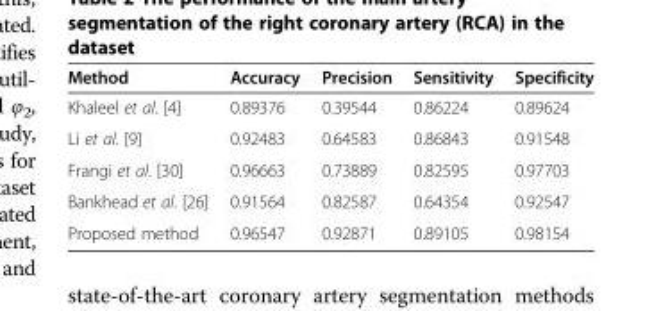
<table><thead><tr><td>Method</td><td>Accuracy</td><td>Precision</td><td>Sensitivity</td><td>Specificity</td></tr></thead><tbody><tr><td>Khaleel et al. [4]</td><td>0.89376</td><td>0.39544</td><td>0.86224</td><td>0.89624</td></tr><tr><td>Li et al. [9]</td><td>0.92483</td><td>0.64583</td><td>0.86843</td><td>0.91548</td></tr><tr><td>Frangi et al. [30]</td><td>0.96663</td><td>0.73889</td><td>0.82595</td><td>0.97703</td></tr><tr><td>Bankhead et al. [26]</td><td>0.91564</td><td>0.82587</td><td>0.64354</td><td>0.92547</td></tr><tr><td>Proposed method</td><td>0.96547</td><td>0.92871</td><td>0.89105</td><td>0.98154</td></tr></tbody></table>